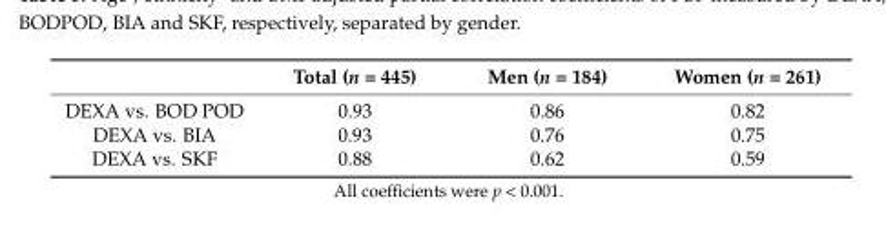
<table><thead><tr><td></td><td>Total (n = 445)</td><td>Men (n = 184)</td><td>Women (n = 261)</td></tr></thead><tbody><tr><td>DEXA vs. BOD POD</td><td>0.93</td><td>0.86</td><td>0.82</td></tr><tr><td>DEXA vs. BIA</td><td>0.93</td><td>0.76</td><td>0.75</td></tr><tr><td>DEXA vs. SKF</td><td>0.88</td><td>0.62</td><td>0.59</td></tr></tbody></table>